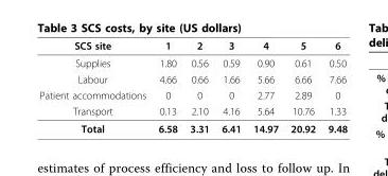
<table><thead><tr><td>SCS site</td><td>1</td><td>2</td><td>3</td><td>4</td><td>5</td><td>6</td></tr></thead><tbody><tr><td>Supplies</td><td>1.80</td><td>0.56</td><td>0.59</td><td>0.90</td><td>0.61</td><td>0.50</td></tr><tr><td>Labour</td><td>4.66</td><td>0.66</td><td>1.66</td><td>5.66</td><td>6.66</td><td>7.66</td></tr><tr><td>Patient accommodations</td><td>0</td><td>0</td><td>0</td><td>2.77</td><td>2.89</td><td>0</td></tr><tr><td>Transport</td><td>0.13</td><td>2.10</td><td>4.16</td><td>5.64</td><td>10.76</td><td>1.33</td></tr><tr><td>Total</td><td>6.58</td><td>3.31</td><td>6.41</td><td>14.97</td><td>20.92</td><td>9.48</td></tr></tbody></table>